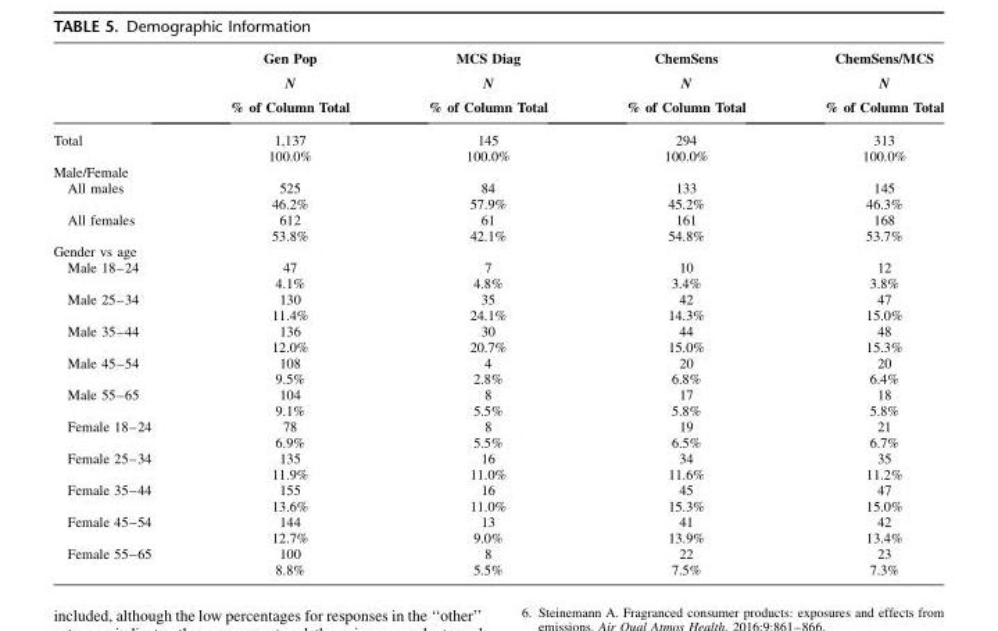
<table><thead><tr><td rowspan="3"></td><td rowspan="3">Gen Pop N % of Column Total</td><td rowspan="3">MCS Diag N % of Column Total</td><td rowspan="3">ChemSens N % of Column Total</td><td rowspan="3">ChemSens/MCS N % of Column Total</td></tr><tr></tr><tr></tr></thead><tbody><tr><td rowspan="2">Total</td><td>1,137</td><td>145</td><td>294</td><td>313</td></tr><tr><td>100.0%</td><td>100.0%</td><td>100.0%</td><td>100.0%</td></tr><tr><td colspan="5">Male/Female</td></tr><tr><td rowspan="2">All males</td><td>525</td><td>84</td><td>133</td><td>145</td></tr><tr><td>46.2%</td><td>57.9%</td><td>45.2%</td><td>46.3%</td></tr><tr><td rowspan="2">All females</td><td>612</td><td>61</td><td>161</td><td>168</td></tr><tr><td>53.8%</td><td>42.1%</td><td>54.8%</td><td>53.7%</td></tr><tr><td colspan="5">Gender vs age</td></tr><tr><td rowspan="2">Male 18–24</td><td>47</td><td>7</td><td>10</td><td>12</td></tr><tr><td>4.1%</td><td>4.8%</td><td>3.4%</td><td>3.8%</td></tr><tr><td rowspan="2">Male 25–34</td><td>130</td><td>35</td><td>42</td><td>47</td></tr><tr><td>11.4%</td><td>24.1%</td><td>14.3%</td><td>15.0%</td></tr><tr><td rowspan="2">Male 35–44</td><td>136</td><td>30</td><td>44</td><td>48</td></tr><tr><td>12.0%</td><td>20.7%</td><td>15.0%</td><td>15.3%</td></tr><tr><td rowspan="2">Male 45–54</td><td>108</td><td>4</td><td>20</td><td>20</td></tr><tr><td>9.5%</td><td>2.8%</td><td>6.8%</td><td>6.4%</td></tr><tr><td rowspan="2">Male 55–65</td><td>104</td><td>8</td><td>17</td><td>18</td></tr><tr><td>9.1%</td><td>5.5%</td><td>5.8%</td><td>5.8%</td></tr><tr><td rowspan="2">Female 18–24</td><td>78</td><td>8</td><td>19</td><td>21</td></tr><tr><td>6.9%</td><td>5.5%</td><td>6.5%</td><td>6.7%</td></tr><tr><td rowspan="2">Female 25–34</td><td>135</td><td>16</td><td>34</td><td>35</td></tr><tr><td>11.9%</td><td>11.0%</td><td>11.6%</td><td>11.2%</td></tr><tr><td rowspan="2">Female 35–44</td><td>155</td><td>16</td><td>45</td><td>47</td></tr><tr><td>13.6%</td><td>11.0%</td><td>15.3%</td><td>15.0%</td></tr><tr><td rowspan="2">Female 45–54</td><td>144</td><td>13</td><td>41</td><td>42</td></tr><tr><td>12.7%</td><td>9.0%</td><td>13.9%</td><td>13.4%</td></tr><tr><td rowspan="2">Female 55–65</td><td>100</td><td>8</td><td>22</td><td>23</td></tr><tr><td>8.8%</td><td>5.5%</td><td>7.5%</td><td>7.3%</td></tr></tbody></table>